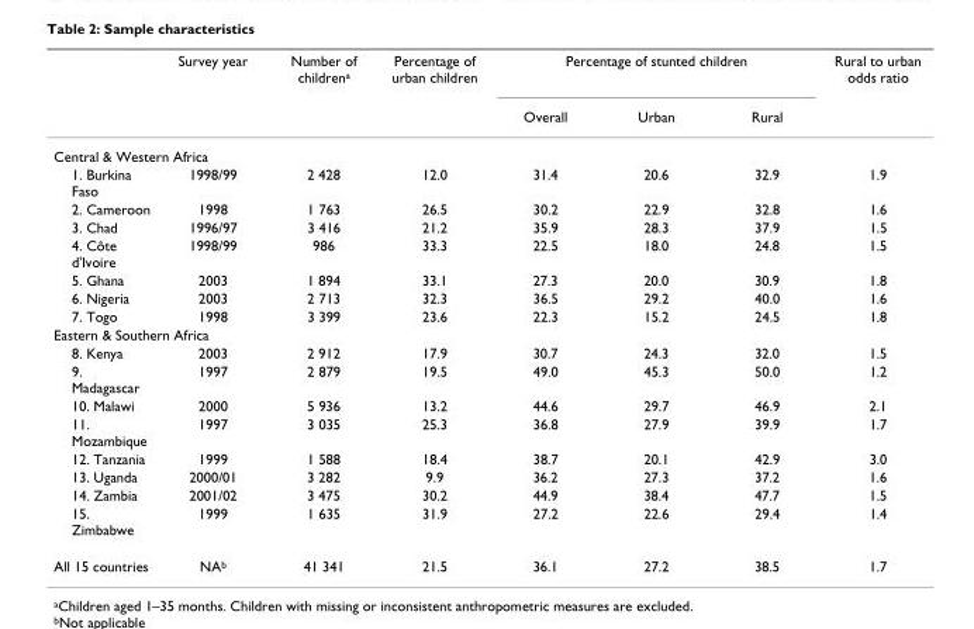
<table><thead><tr><td rowspan="2"></td><td rowspan="2">Survey year</td><td rowspan="2">Number of children<sup>a</sup></td><td rowspan="2">Percentage of urban children</td><td colspan="3">Percentage of stunted children</td><td rowspan="2">Rural to urban odds ratio</td></tr><tr><td>Overall</td><td>Urban</td><td>Rural</td></tr></thead><tbody><tr><td colspan="8">Central &amp; Western Africa</td></tr><tr><td>1. Burkina Faso</td><td>1998/99</td><td>2 428</td><td>12.0</td><td>31.4</td><td>20.6</td><td>32.9</td><td>1.9</td></tr><tr><td>2. Cameroon</td><td>1998</td><td>1 763</td><td>26.5</td><td>30.2</td><td>22.9</td><td>32.8</td><td>1.6</td></tr><tr><td>3. Chad</td><td>1996/97</td><td>3 416</td><td>21.2</td><td>35.9</td><td>28.3</td><td>37.9</td><td>1.5</td></tr><tr><td>4. Côte d&#x27;Ivoire</td><td>1998/99</td><td>986</td><td>33.3</td><td>22.5</td><td>18.0</td><td>24.8</td><td>1.5</td></tr><tr><td>5. Ghana</td><td>2003</td><td>1 894</td><td>33.1</td><td>27.3</td><td>20.0</td><td>30.9</td><td>1.8</td></tr><tr><td>6. Nigeria</td><td>2003</td><td>2 713</td><td>32.3</td><td>36.5</td><td>29.2</td><td>40.0</td><td>1.6</td></tr><tr><td>7. Togo</td><td>1998</td><td>3 399</td><td>23.6</td><td>22.3</td><td>15.2</td><td>24.5</td><td>1.8</td></tr><tr><td colspan="8">Eastern &amp; Southern Africa</td></tr><tr><td>8. Kenya</td><td>2003</td><td>2 912</td><td>17.9</td><td>30.7</td><td>24.3</td><td>32.0</td><td>1.5</td></tr><tr><td>9. Madagascar</td><td>1997</td><td>2 879</td><td>19.5</td><td>49.0</td><td>45.3</td><td>50.0</td><td>1.2</td></tr><tr><td>10. Malawi</td><td>2000</td><td>5 936</td><td>13.2</td><td>44.6</td><td>29.7</td><td>46.9</td><td>2.1</td></tr><tr><td>11. Mozambique</td><td>1997</td><td>3 035</td><td>25.3</td><td>36.8</td><td>27.9</td><td>39.9</td><td>1.7</td></tr><tr><td>12. Tanzania</td><td>1999</td><td>1 588</td><td>18.4</td><td>38.7</td><td>20.1</td><td>42.9</td><td>3.0</td></tr><tr><td>13. Uganda</td><td>2000/01</td><td>3 282</td><td>9.9</td><td>36.2</td><td>27.3</td><td>37.2</td><td>1.6</td></tr><tr><td>14. Zambia</td><td>2001/02</td><td>3 475</td><td>30.2</td><td>44.9</td><td>38.4</td><td>47.7</td><td>1.5</td></tr><tr><td>15. Zimbabwe</td><td>1999</td><td>1 635</td><td>31.9</td><td>27.2</td><td>22.6</td><td>29.4</td><td>1.4</td></tr><tr><td>All 15 countries</td><td>NA<sup>b</sup></td><td>41 341</td><td>21.5</td><td>36.1</td><td>27.2</td><td>38.5</td><td>1.7</td></tr></tbody></table>